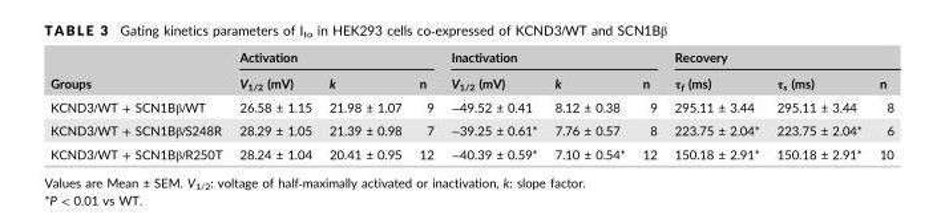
<table><thead><tr><td rowspan="2">Groups</td><td colspan="3">Activation</td><td colspan="3">Inactivation</td><td colspan="3">Recovery</td></tr><tr><td>V<sub>1/2</sub> (mV)</td><td>k</td><td>n</td><td>V<sub>1/2</sub> (mV)</td><td>k</td><td>n</td><td>τ<sub>f</sub> (ms)</td><td>τ<sub>s</sub> (ms)</td><td>n</td></tr></thead><tbody><tr><td>KCND3/WT + SCN1Bβ/WT</td><td>26.58 ± 1.15</td><td>21.98 ± 1.07</td><td>9</td><td>−49.52 ± 0.41</td><td>8.12 ± 0.38</td><td>9</td><td>295.11 ± 3.44</td><td>295.11 ± 3.44</td><td>8</td></tr><tr><td>KCND3/WT + SCN1Bβ/S248R</td><td>28.29 ± 1.05</td><td>21.39 ± 0.98</td><td>7</td><td>−39.25 ± 0.61*</td><td>7.76 ± 0.57</td><td>8</td><td>223.75 ± 2.04*</td><td>223.75 ± 2.04*</td><td>6</td></tr><tr><td>KCND3/WT + SCN1Bβ/R250T</td><td>28.24 ± 1.04</td><td>20.41 ± 0.95</td><td>12</td><td>−40.39 ± 0.59*</td><td>7.10 ± 0.54*</td><td>12</td><td>150.18 ± 2.91*</td><td>150.18 ± 2.91*</td><td>10</td></tr></tbody></table>